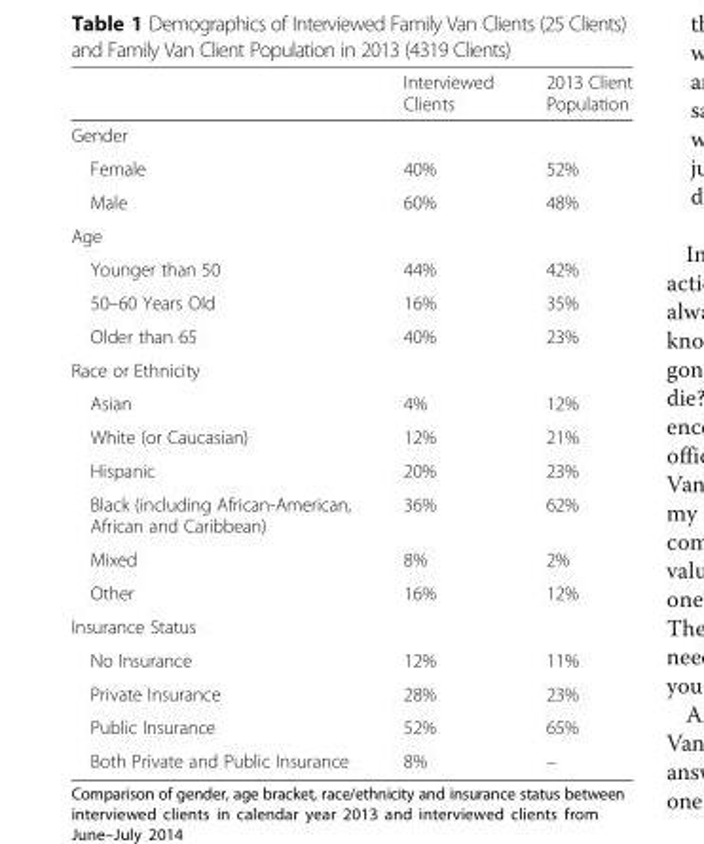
<table><thead><tr><td></td><td>Interviewed Clients</td><td>2013 Client Population</td></tr></thead><tbody><tr><td colspan="3">Gender</td></tr><tr><td>Female</td><td>40%</td><td>52%</td></tr><tr><td>Male</td><td>60%</td><td>48%</td></tr><tr><td colspan="3">Age</td></tr><tr><td>Younger than 50</td><td>44%</td><td>42%</td></tr><tr><td>50–60 Years Old</td><td>16%</td><td>35%</td></tr><tr><td>Older than 65</td><td>40%</td><td>23%</td></tr><tr><td colspan="3">Race or Ethnicity</td></tr><tr><td>Asian</td><td>4%</td><td>12%</td></tr><tr><td>White (or Caucasian)</td><td>12%</td><td>21%</td></tr><tr><td>Hispanic</td><td>20%</td><td>23%</td></tr><tr><td>Black (including African-American, African and Caribbean)</td><td>36%</td><td>62%</td></tr><tr><td>Mixed</td><td>8%</td><td>2%</td></tr><tr><td>Other</td><td>16%</td><td>12%</td></tr><tr><td colspan="3">Insurance Status</td></tr><tr><td>No Insurance</td><td>12%</td><td>11%</td></tr><tr><td>Private Insurance</td><td>28%</td><td>23%</td></tr><tr><td>Public Insurance</td><td>52%</td><td>65%</td></tr><tr><td>Both Private and Public Insurance</td><td>8%</td><td>–</td></tr></tbody></table>